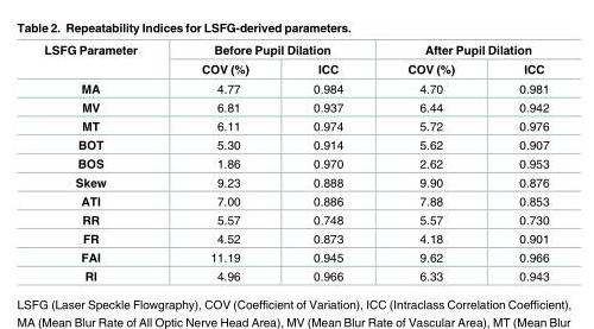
<table><thead><tr><td rowspan="2">LSFG Parameter</td><td colspan="2">Before Pupil Dilation</td><td colspan="2">After Pupil Dilation</td></tr><tr><td>COV (%)</td><td>ICC</td><td>COV (%)</td><td>ICC</td></tr></thead><tbody><tr><td>MA</td><td>4.77</td><td>0.984</td><td>4.70</td><td>0.981</td></tr><tr><td>MV</td><td>6.81</td><td>0.937</td><td>6.44</td><td>0.942</td></tr><tr><td>MT</td><td>6.11</td><td>0.974</td><td>5.72</td><td>0.976</td></tr><tr><td>BOT</td><td>5.30</td><td>0.914</td><td>5.62</td><td>0.907</td></tr><tr><td>BOS</td><td>1.86</td><td>0.970</td><td>2.62</td><td>0.953</td></tr><tr><td>Skew</td><td>9.23</td><td>0.888</td><td>9.90</td><td>0.876</td></tr><tr><td>ATI</td><td>7.00</td><td>0.886</td><td>7.88</td><td>0.853</td></tr><tr><td>RR</td><td>5.57</td><td>0.748</td><td>5.57</td><td>0.730</td></tr><tr><td>FR</td><td>4.52</td><td>0.873</td><td>4.18</td><td>0.901</td></tr><tr><td>FAI</td><td>11.19</td><td>0.945</td><td>9.62</td><td>0.966</td></tr><tr><td>RI</td><td>4.96</td><td>0.966</td><td>6.33</td><td>0.943</td></tr></tbody></table>